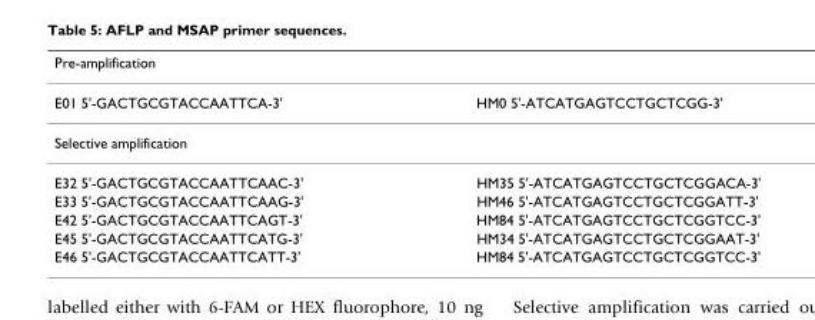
<table><thead><tr><td>Pre-amplification</td><td></td></tr></thead><tbody><tr><td>E01 5&#x27;-GACTGCGTACCAATTCA-3&#x27;</td><td>HM0 5&#x27;-ATCATGAGTCCTGCTCGG-3&#x27;</td></tr><tr><td colspan="2">Selective amplification</td></tr><tr><td>E32 5&#x27;-GACTGCGTACCAATTCAAC-3&#x27;</td><td>HM35 5&#x27;-ATCATGAGTCCTGCTCGGACA-3&#x27;</td></tr><tr><td>E33 5&#x27;-GACTGCGTACCAATTCAAG-3&#x27;</td><td>HM46 5&#x27;-ATCATGAGTCCTGCTCGGATT-3&#x27;</td></tr><tr><td>E42 5&#x27;-GACTGCGTACCAATTCAGT-3&#x27;</td><td>HM84 5&#x27;-ATCATGAGTCCTGCTCGGTCC-3&#x27;</td></tr><tr><td>E45 5&#x27;-GACTGCGTACCAATTCATG-3&#x27;</td><td>HM34 5&#x27;-ATCATGAGTCCTGCTCGGAAT-3&#x27;</td></tr><tr><td>E46 5&#x27;-GACTGCGTACCAATTCATT-3&#x27;</td><td>HM84 5&#x27;-ATCATGAGTCCTGCTCGGTCC-3&#x27;</td></tr></tbody></table>